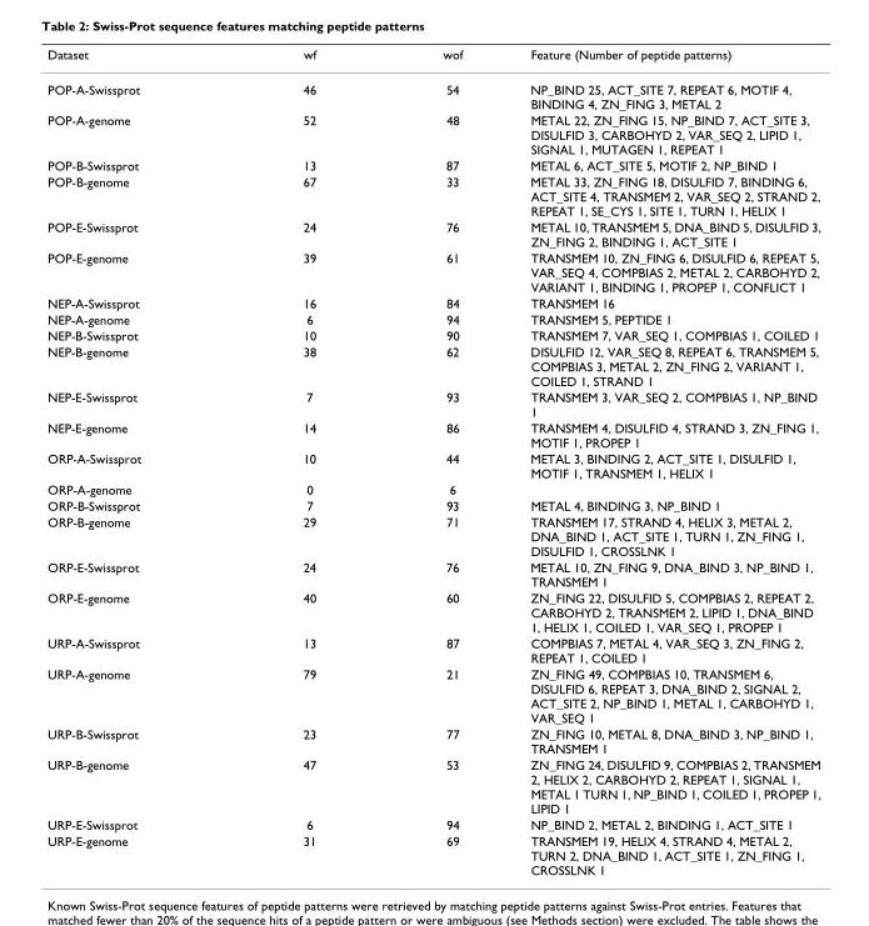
<table><thead><tr><td>Dataset</td><td>wf</td><td>wof</td><td>Feature (Number of peptide patterns)</td></tr></thead><tbody><tr><td>POP-A-Swissprot</td><td>46</td><td>54</td><td>NP_BIND 25, ACT_SITE 7, REPEAT 6, MOTIF 4, BINDING 4, ZN_FING 3, METAL 2</td></tr><tr><td>POP-A-genome</td><td>52</td><td>48</td><td>METAL 22, ZN_FING 15, NP_BIND 7, ACT_SITE 3, DISULFID 3, CARBOHYD 2, VAR_SEQ 2, LIPID 1, SIGNAL 1, MUTAGEN 1, REPEAT 1</td></tr><tr><td>POP-B-Swissprot</td><td>13</td><td>87</td><td>METAL 6, ACT_SITE 5, MOTIF 2, NP_BIND 1</td></tr><tr><td>POP-B-genome</td><td>67</td><td>33</td><td>METAL 33, ZN_FING 18, DISULFID 7, BINDING 6, ACT_SITE 4, TRANSMEM 2, VAR_SEQ 2, STRAND 2, REPEAT 1, SE_CYS 1, SITE 1, TURN 1, HELIX 1</td></tr><tr><td>POP-E-Swissprot</td><td>24</td><td>76</td><td>METAL 10, TRANSMEM 5, DNA_BIND 5, DISULFID 3, ZN_FING 2, BINDING 1, ACT_SITE 1</td></tr><tr><td>POP-E-genome</td><td>39</td><td>61</td><td>TRANSMEM 10, ZN_FING 6, DISULFID 6, REPEAT 5, VAR_SEQ 4, COMPBIAS 2, METAL 2, CARBOHYD 2, VARIANT 1, BINDING 1, PROPEP 1, CONFLICT 1</td></tr><tr><td>NEP-A-Swissprot</td><td>16</td><td>84</td><td>TRANSMEM 16</td></tr><tr><td>NEP-A-genome</td><td>6</td><td>94</td><td>TRANSMEM 5, PEPTIDE 1</td></tr><tr><td>NEP-B-Swissprot</td><td>10</td><td>90</td><td>TRANSMEM 7, VAR_SEQ 1, COMPBIAS 1, COILED 1</td></tr><tr><td>NEP-B-genome</td><td>38</td><td>62</td><td>DISULFID 12, VAR_SEQ 8, REPEAT 6, TRANSMEM 5, COMPBIAS 3, METAL 2, ZN_FING 2, VARIANT 1, COILED 1, STRAND 1</td></tr><tr><td>NEP-E-Swissprot</td><td>7</td><td>93</td><td>TRANSMEM 3, VAR_SEQ 2, COMPBIAS 1, NP_BIND 1</td></tr><tr><td>NEP-E-genome</td><td>14</td><td>86</td><td>TRANSMEM 4, DISULFID 4, STRAND 3, ZN_FING 1, MOTIF 1, PROPEP 1</td></tr><tr><td>ORP-A-Swissprot</td><td>10</td><td>44</td><td>METAL 3, BINDING 2, ACT_SITE 1, DISULFID 1, MOTIF 1, TRANSMEM 1, HELIX 1</td></tr><tr><td>ORP-A-genome</td><td>0</td><td>6</td><td></td></tr><tr><td>ORP-B-Swissprot</td><td>7</td><td>93</td><td>METAL 4, BINDING 3, NP_BIND 1</td></tr><tr><td>ORP-B-genome</td><td>29</td><td>71</td><td>TRANSMEM 17, STRAND 4, HELIX 3, METAL 2, DNA_BIND 1, ACT_SITE 1, TURN 1, ZN_FING 1, DISULFID 1, CROSSLNK 1</td></tr><tr><td>ORP-E-Swissprot</td><td>24</td><td>76</td><td>METAL 10, ZN_FING 9, DNA_BIND 3, NP_BIND 1, TRANSMEM 1</td></tr><tr><td>ORP-E-genome</td><td>40</td><td>60</td><td>ZN_FING 22, DISULFID 5, COMPBIAS 2, REPEAT 2, CARBOHYD 2, TRANSMEM 2, LIPID 1, DNA_BIND 1, HELIX 1, COILED 1, VAR_SEQ 1, PROPEP 1</td></tr><tr><td>URP-A-Swissprot</td><td>13</td><td>87</td><td>COMPBIAS 7, METAL 4, VAR_SEQ 3, ZN_FING 2, REPEAT 1, COILED 1</td></tr><tr><td>URP-A-genome</td><td>79</td><td>21</td><td>ZN_FING 49, COMPBIAS 10, TRANSMEM 6, DISULFID 6, REPEAT 3, DNA_BIND 2, SIGNAL 2, ACT_SITE 2, NP_BIND 1, METAL 1, CARBOHYD 1, VAR_SEQ 1</td></tr><tr><td>URP-B-Swissprot</td><td>23</td><td>77</td><td>ZN_FING 10, METAL 8, DNA_BIND 3, NP_BIND 1, TRANSMEM 1</td></tr><tr><td>URP-B-genome</td><td>47</td><td>53</td><td>ZN_FING 24, DISULFID 9, COMPBIAS 2, TRANSMEM 2, HELIX 2, CARBOHYD 2, REPEAT 1, SIGNAL 1, METAL 1 TURN 1, NP_BIND 1, COILED 1, PROPEP 1, LIPID 1</td></tr><tr><td>URP-E-Swissprot</td><td>6</td><td>94</td><td>NP_BIND 2, METAL 2, BINDING 1, ACT_SITE 1</td></tr><tr><td>URP-E-genome</td><td>31</td><td>69</td><td>TRANSMEM 19, HELIX 4, STRAND 4, METAL 2, TURN 2, DNA_BIND 1, ACT_SITE 1, ZN_FING 1, CROSSLNK 1</td></tr></tbody></table>